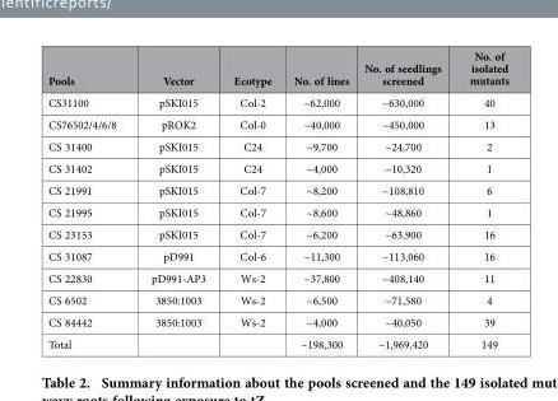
<table><thead><tr><td>Pools</td><td>Vector</td><td>Ecotype</td><td>No. of lines</td><td>No. of seedlings screened</td><td>No. of isolated mutants</td></tr></thead><tbody><tr><td>CS31100</td><td>pSKI015</td><td>Col-2</td><td>~62,000</td><td>~630,000</td><td>40</td></tr><tr><td>CS76502/4/6/8</td><td>pROK2</td><td>Col-0</td><td>~40,000</td><td>~450,000</td><td>13</td></tr><tr><td>CS 31400</td><td>pSKI015</td><td>C24</td><td>~9,700</td><td>~24,700</td><td>2</td></tr><tr><td>CS 31402</td><td>pSKI015</td><td>C24</td><td>~4,000</td><td>~10,320</td><td>1</td></tr><tr><td>CS 21991</td><td>pSKI015</td><td>Col-7</td><td>~8,200</td><td>~108,810</td><td>6</td></tr><tr><td>CS 21995</td><td>pSKI015</td><td>Col-7</td><td>~8,600</td><td>~48,860</td><td>1</td></tr><tr><td>CS 23153</td><td>pSKI015</td><td>Col-7</td><td>~6,200</td><td>~63,900</td><td>16</td></tr><tr><td>CS 31087</td><td>pD991</td><td>Col-6</td><td>~11,300</td><td>~113,060</td><td>16</td></tr><tr><td>CS 22830</td><td>pD991-AP3</td><td>Ws-2</td><td>~37,800</td><td>~408,140</td><td>11</td></tr><tr><td>CS 6502</td><td>3850:1003</td><td>Ws-2</td><td>~6,500</td><td>~71,580</td><td>4</td></tr><tr><td>CS 84442</td><td>3850:1003</td><td>Ws-2</td><td>~4,000</td><td>~40,050</td><td>39</td></tr><tr><td>Total</td><td></td><td></td><td>~198,300</td><td>~1,969,420</td><td>149</td></tr></tbody></table>